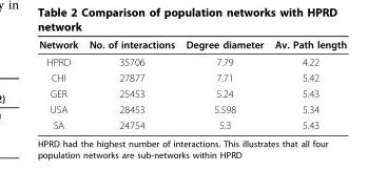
<table><thead><tr><td>Network</td><td>No. of interactions</td><td>Degree diameter</td><td>Av. Path length</td></tr></thead><tbody><tr><td>HPRD</td><td>35706</td><td>7.79</td><td>4.22</td></tr><tr><td>CHI</td><td>27877</td><td>7.71</td><td>5.42</td></tr><tr><td>GER</td><td>25453</td><td>5.24</td><td>5.43</td></tr><tr><td>USA</td><td>28453</td><td>5.598</td><td>5.34</td></tr><tr><td>SA</td><td>24754</td><td>5.3</td><td>5.43</td></tr></tbody></table>